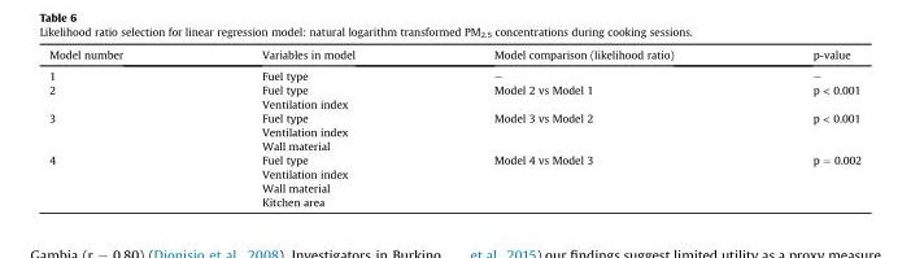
<table><thead><tr><td>Model number</td><td>Variables in model</td><td>Model comparison (likelihood ratio)</td><td>p-value</td></tr></thead><tbody><tr><td>1</td><td>Fuel type</td><td>–</td><td>–</td></tr><tr><td rowspan="2">2</td><td>Fuel type</td><td rowspan="2">Model 2 vs Model 1</td><td rowspan="2">p &lt; 0.001</td></tr><tr><td>Ventilation index</td></tr><tr><td rowspan="3">3</td><td>Fuel type</td><td rowspan="3">Model 3 vs Model 2</td><td rowspan="3">p &lt; 0.001</td></tr><tr><td>Ventilation index</td></tr><tr><td>Wall material</td></tr><tr><td rowspan="4">4</td><td>Fuel type</td><td rowspan="4">Model 4 vs Model 3</td><td rowspan="4">p = 0.002</td></tr><tr><td>Ventilation index</td></tr><tr><td>Wall material</td></tr><tr><td>Kitchen area</td></tr></tbody></table>